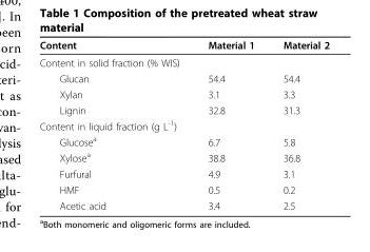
<table><thead><tr><td>Content</td><td>Material 1</td><td>Material 2</td></tr></thead><tbody><tr><td colspan="3">Content in solid fraction (% WIS)</td></tr><tr><td>Glucan</td><td>54.4</td><td>54.4</td></tr><tr><td>Xylan</td><td>3.1</td><td>3.3</td></tr><tr><td>Lignin</td><td>32.8</td><td>31.3</td></tr><tr><td colspan="3">Content in liquid fraction (g L<sup>-1</sup>)</td></tr><tr><td>Glucose<sup>a</sup></td><td>6.7</td><td>5.8</td></tr><tr><td>Xylose<sup>a</sup></td><td>38.8</td><td>36.8</td></tr><tr><td>Furfural</td><td>4.9</td><td>3.1</td></tr><tr><td>HMF</td><td>0.5</td><td>0.2</td></tr><tr><td>Acetic acid</td><td>3.4</td><td>2.5</td></tr></tbody></table>